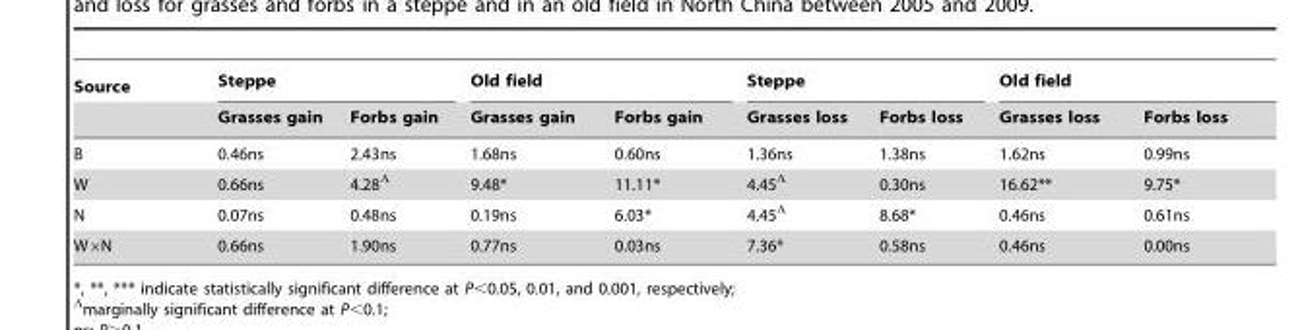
<table><thead><tr><td rowspan="2">Source</td><td colspan="2">Steppe</td><td colspan="2">Old field</td><td colspan="2">Steppe</td><td colspan="2">Old field</td></tr><tr><td>Grasses gain</td><td>Forbs gain</td><td>Grasses gain</td><td>Forbs gain</td><td>Grasses loss</td><td>Forbs loss</td><td>Grasses loss</td><td>Forbs loss</td></tr></thead><tbody><tr><td>B</td><td>0.46ns</td><td>2.43ns</td><td>1.68ns</td><td>0.60ns</td><td>1.36ns</td><td>1.38ns</td><td>1.62ns</td><td>0.99ns</td></tr><tr><td>W</td><td>0.66ns</td><td>4.28Λ</td><td>9.48*</td><td>11.11*</td><td>4.45Λ</td><td>0.30ns</td><td>16.62**</td><td>9.75*</td></tr><tr><td>N</td><td>0.07ns</td><td>0.48ns</td><td>0.19ns</td><td>6.03*</td><td>4.45Λ</td><td>8.68*</td><td>0.46ns</td><td>0.61ns</td></tr><tr><td>W×N</td><td>0.66ns</td><td>1.90ns</td><td>0.77ns</td><td>0.03ns</td><td>7.36*</td><td>0.58ns</td><td>0.46ns</td><td>0.00ns</td></tr></tbody></table>